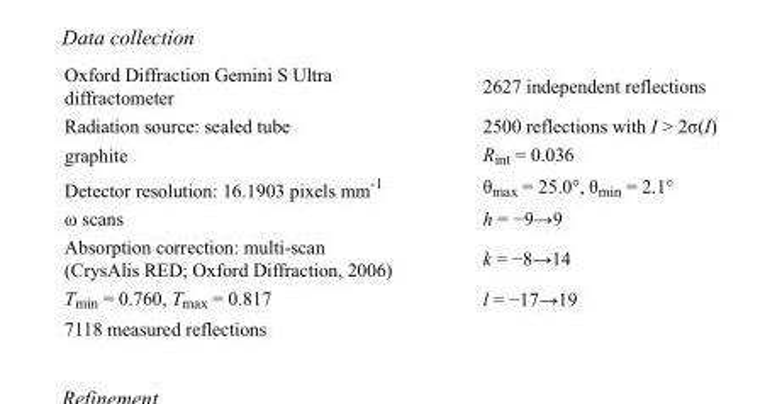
<table><tbody><tr><td>Oxford Diffraction Gemini S Ultra diffractometer</td><td>2627 independent reflections</td></tr><tr><td>Radiation source: sealed tube</td><td>2500 reflections with I &gt; 2σ(I)</td></tr><tr><td>graphite</td><td>R<sub>int</sub> = 0.036</td></tr><tr><td>Detector resolution: 16.1903 pixels mm<sup>-1</sup></td><td>θ<sub>max</sub> = 25.0°, θ<sub>min</sub> = 2.1°</td></tr><tr><td>ω scans</td><td>h = −9→9</td></tr><tr><td>Absorption correction: multi-scan (CrysAlis RED; Oxford Diffraction, 2006)</td><td>k = −8→14</td></tr><tr><td>T<sub>min</sub> = 0.760, T<sub>max</sub> = 0.817</td><td>l = −17→19</td></tr><tr><td>7118 measured reflections</td><td></td></tr></tbody></table>